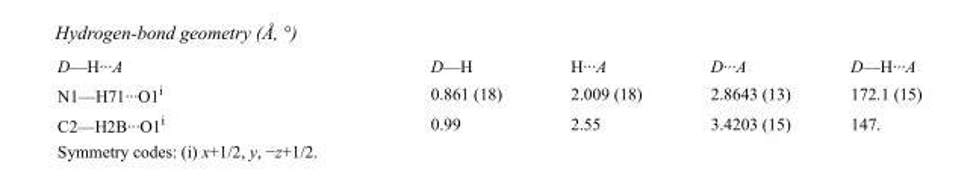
<table><tbody><tr><td>D—H···A</td><td>D—H</td><td>H···A</td><td>D···A</td><td>D—H···A</td></tr><tr><td>N1—H71···O1<sup>i</sup></td><td>0.861 (18)</td><td>2.009 (18)</td><td>2.8643 (13)</td><td>172.1 (15)</td></tr><tr><td>C2—H2B···O1<sup>i</sup></td><td>0.99</td><td>2.55</td><td>3.4203 (15)</td><td>147.</td></tr></tbody></table>